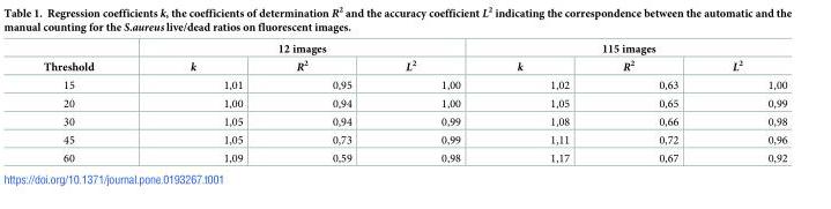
<table><thead><tr><td rowspan="2">Threshold</td><td colspan="3">12 images</td><td colspan="3">115 images</td></tr><tr><td>k</td><td>R<sup>2</sup></td><td>L<sup>2</sup></td><td>k</td><td>R<sup>2</sup></td><td>L<sup>2</sup></td></tr></thead><tbody><tr><td>15</td><td>1,01</td><td>0,95</td><td>1,00</td><td>1,02</td><td>0,63</td><td>1,00</td></tr><tr><td>20</td><td>1,00</td><td>0,94</td><td>1,00</td><td>1,05</td><td>0,65</td><td>0,99</td></tr><tr><td>30</td><td>1,05</td><td>0,94</td><td>0,99</td><td>1,08</td><td>0,66</td><td>0,98</td></tr><tr><td>45</td><td>1,05</td><td>0,73</td><td>0,99</td><td>1,11</td><td>0,72</td><td>0,96</td></tr><tr><td>60</td><td>1,09</td><td>0,59</td><td>0,98</td><td>1,17</td><td>0,67</td><td>0,92</td></tr></tbody></table>